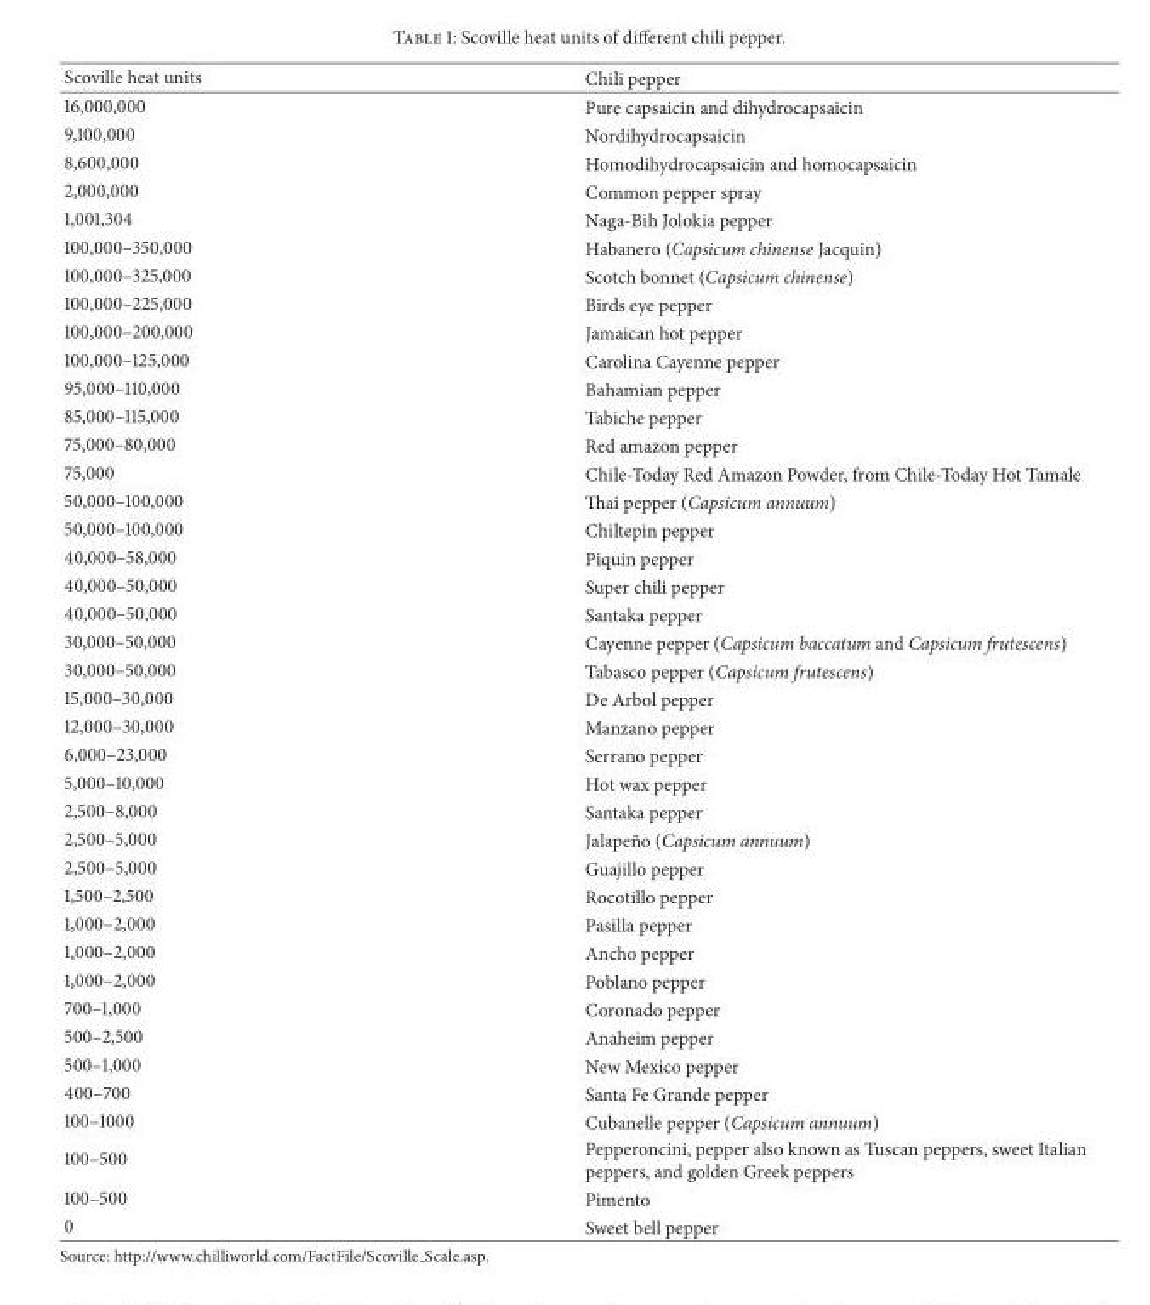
<table><thead><tr><td>Scoville heat units</td><td>Chili pepper</td></tr></thead><tbody><tr><td>16,000,000</td><td>Pure capsaicin and dihydrocapsaicin</td></tr><tr><td>9,100,000</td><td>Nordihydrocapsaicin</td></tr><tr><td>8,600,000</td><td>Homodihydrocapsaicin and homocapsaicin</td></tr><tr><td>2,000,000</td><td>Common pepper spray</td></tr><tr><td>1,001,304</td><td>Naga-Bih Jolokia pepper</td></tr><tr><td>100,000–350,000</td><td>Habanero (Capsicum chinense Jacquin)</td></tr><tr><td>100,000–325,000</td><td>Scotch bonnet (Capsicum chinense)</td></tr><tr><td>100,000–225,000</td><td>Birds eye pepper</td></tr><tr><td>100,000–200,000</td><td>Jamaican hot pepper</td></tr><tr><td>100,000–125,000</td><td>Carolina Cayenne pepper</td></tr><tr><td>95,000–110,000</td><td>Bahamian pepper</td></tr><tr><td>85,000–115,000</td><td>Tabiche pepper</td></tr><tr><td>75,000–80,000</td><td>Red amazon pepper</td></tr><tr><td>75,000</td><td>Chile-Today Red Amazon Powder, from Chile-Today Hot Tamale</td></tr><tr><td>50,000–100,000</td><td>Thai pepper (Capsicum annuum)</td></tr><tr><td>50,000–100,000</td><td>Chiltepin pepper</td></tr><tr><td>40,000–58,000</td><td>Piquin pepper</td></tr><tr><td>40,000–50,000</td><td>Super chili pepper</td></tr><tr><td>40,000–50,000</td><td>Santaka pepper</td></tr><tr><td>30,000–50,000</td><td>Cayenne pepper (Capsicum baccatum and Capsicum frutescens)</td></tr><tr><td>30,000–50,000</td><td>Tabasco pepper (Capsicum frutescens)</td></tr><tr><td>15,000–30,000</td><td>De Arbol pepper</td></tr><tr><td>12,000–30,000</td><td>Manzano pepper</td></tr><tr><td>6,000–23,000</td><td>Serrano pepper</td></tr><tr><td>5,000–10,000</td><td>Hot wax pepper</td></tr><tr><td>2,500–8,000</td><td>Santaka pepper</td></tr><tr><td>2,500–5,000</td><td>Jalape˜no (Capsicum annuum)</td></tr><tr><td>2,500–5,000</td><td>Guajillo pepper</td></tr><tr><td>1,500–2,500</td><td>Rocotillo pepper</td></tr><tr><td>1,000–2,000</td><td>Pasilla pepper</td></tr><tr><td>1,000–2,000</td><td>Ancho pepper</td></tr><tr><td>1,000–2,000</td><td>Poblano pepper</td></tr><tr><td>700–1,000</td><td>Coronado pepper</td></tr><tr><td>500–2,500</td><td>Anaheim pepper</td></tr><tr><td>500–1,000</td><td>New Mexico pepper</td></tr><tr><td>400–700</td><td>Santa Fe Grande pepper</td></tr><tr><td>100–1000</td><td>Cubanelle pepper (Capsicum annuum)</td></tr><tr><td>100–500</td><td>Pepperoncini, pepper also known as Tuscan peppers, sweet Italian peppers, and golden Greek peppers</td></tr><tr><td>100–500</td><td>Pimento</td></tr><tr><td>0</td><td>Sweet bell pepper</td></tr></tbody></table>